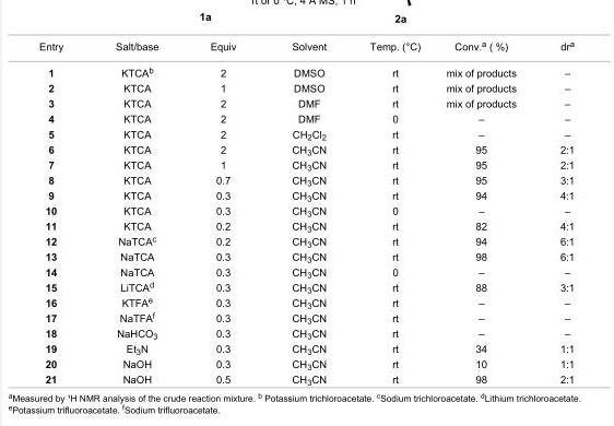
<table><tbody><tr><td>Entry</td><td>Salt/base</td><td>Equiv</td><td>Solvent</td><td>Temp. (°C)</td><td>Conv.<sup>a</sup> ( %)</td><td>dr<sup>a</sup></td></tr><tr><td>1</td><td>KTCA<sup>b</sup></td><td>2</td><td>DMSO</td><td>rt</td><td>mix of products</td><td>–</td></tr><tr><td>2</td><td>KTCA</td><td>1</td><td>DMSO</td><td>rt</td><td>mix of products</td><td>–</td></tr><tr><td>3</td><td>KTCA</td><td>2</td><td>DMF</td><td>rt</td><td>mix of products</td><td>–</td></tr><tr><td>4</td><td>KTCA</td><td>2</td><td>DMF</td><td>0</td><td>–</td><td>–</td></tr><tr><td>5</td><td>KTCA</td><td>2</td><td>CH<sub>2</sub>Cl<sub>2</sub></td><td>rt</td><td>–</td><td>–</td></tr><tr><td>6</td><td>KTCA</td><td>2</td><td>CH<sub>3</sub>CN</td><td>rt</td><td>95</td><td>2:1</td></tr><tr><td>7</td><td>KTCA</td><td>1</td><td>CH<sub>3</sub>CN</td><td>rt</td><td>95</td><td>2:1</td></tr><tr><td>8</td><td>KTCA</td><td>0.7</td><td>CH<sub>3</sub>CN</td><td>rt</td><td>95</td><td>3:1</td></tr><tr><td>9</td><td>KTCA</td><td>0.3</td><td>CH<sub>3</sub>CN</td><td>rt</td><td>94</td><td>4:1</td></tr><tr><td>10</td><td>KTCA</td><td>0.3</td><td>CH<sub>3</sub>CN</td><td>0</td><td>–</td><td>–</td></tr><tr><td>11</td><td>KTCA</td><td>0.2</td><td>CH<sub>3</sub>CN</td><td>rt</td><td>82</td><td>4:1</td></tr><tr><td>12</td><td>NaTCA<sup>c</sup></td><td>0.2</td><td>CH<sub>3</sub>CN</td><td>rt</td><td>94</td><td>6:1</td></tr><tr><td>13</td><td>NaTCA</td><td>0.3</td><td>CH<sub>3</sub>CN</td><td>rt</td><td>98</td><td>6:1</td></tr><tr><td>14</td><td>NaTCA</td><td>0.3</td><td>CH<sub>3</sub>CN</td><td>0</td><td>–</td><td>–</td></tr><tr><td>15</td><td>LiTCA<sup>d</sup></td><td>0.3</td><td>CH<sub>3</sub>CN</td><td>rt</td><td>88</td><td>3:1</td></tr><tr><td>16</td><td>KTFA<sup>e</sup></td><td>0.3</td><td>CH<sub>3</sub>CN</td><td>rt</td><td>–</td><td>–</td></tr><tr><td>17</td><td>NaTFA<sup>f</sup></td><td>0.3</td><td>CH<sub>3</sub>CN</td><td>rt</td><td>–</td><td>–</td></tr><tr><td>18</td><td>NaHCO<sub>3</sub></td><td>0.3</td><td>CH<sub>3</sub>CN</td><td>rt</td><td>–</td><td>–</td></tr><tr><td>19</td><td>Et<sub>3</sub>N</td><td>0.3</td><td>CH<sub>3</sub>CN</td><td>rt</td><td>34</td><td>1:1</td></tr><tr><td>20</td><td>NaOH</td><td>0.3</td><td>CH<sub>3</sub>CN</td><td>rt</td><td>10</td><td>1:1</td></tr><tr><td>21</td><td>NaOH</td><td>0.5</td><td>CH<sub>3</sub>CN</td><td>rt</td><td>98</td><td>2:1</td></tr></tbody></table>